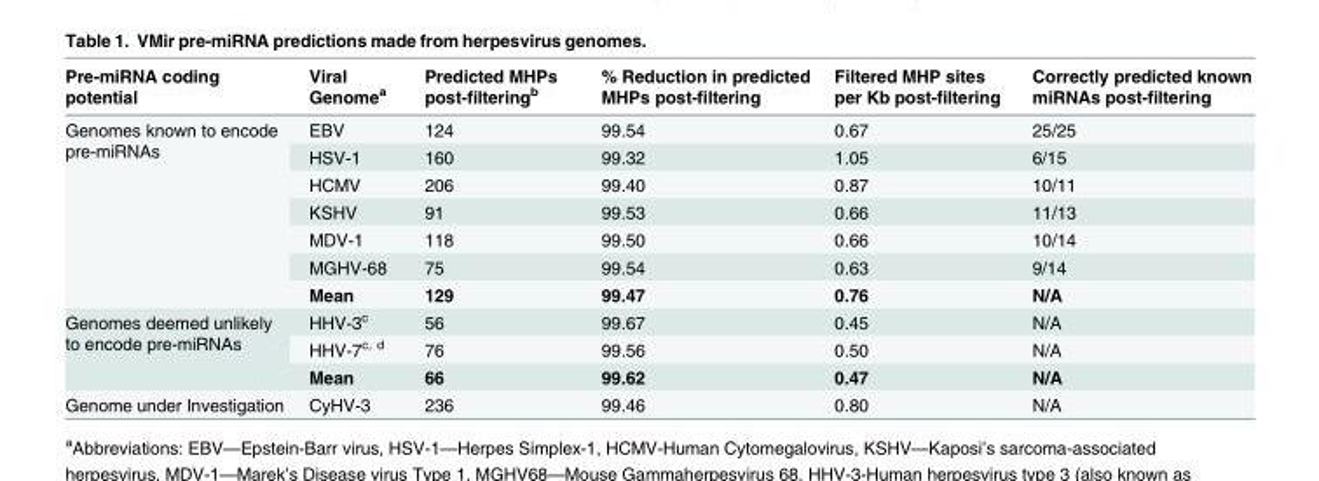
<table><thead><tr><td>Pre-miRNA coding potential</td><td>Viral Genome<sup>a</sup></td><td>Predicted MHPs post-filtering<sup>b</sup></td><td>% Reduction in predicted MHPs post-filtering</td><td>Filtered MHP sites per Kb post-filtering</td><td>Correctly predicted known miRNAs post-filtering</td></tr></thead><tbody><tr><td rowspan="7">Genomes known to encode pre-miRNAs</td><td>EBV</td><td>124</td><td>99.54</td><td>0.67</td><td>25/25</td></tr><tr><td>HSV-1</td><td>160</td><td>99.32</td><td>1.05</td><td>6/15</td></tr><tr><td>HCMV</td><td>206</td><td>99.40</td><td>0.87</td><td>10/11</td></tr><tr><td>KSHV</td><td>91</td><td>99.53</td><td>0.66</td><td>11/13</td></tr><tr><td>MDV-1</td><td>118</td><td>99.50</td><td>0.66</td><td>10/14</td></tr><tr><td>MGHV-68</td><td>75</td><td>99.54</td><td>0.63</td><td>9/14</td></tr><tr><td>Mean</td><td>129</td><td>99.47</td><td>0.76</td><td>N/A</td></tr><tr><td rowspan="3">Genomes deemed unlikely to encode pre-miRNAs</td><td>HHV-3<sup>c</sup></td><td>56</td><td>99.67</td><td>0.45</td><td>N/A</td></tr><tr><td>HHV-7<sup>c, d</sup></td><td>76</td><td>99.56</td><td>0.50</td><td>N/A</td></tr><tr><td>Mean</td><td>66</td><td>99.62</td><td>0.47</td><td>N/A</td></tr><tr><td>Genome under Investigation</td><td>CyHV-3</td><td>236</td><td>99.46</td><td>0.80</td><td>N/A</td></tr></tbody></table>